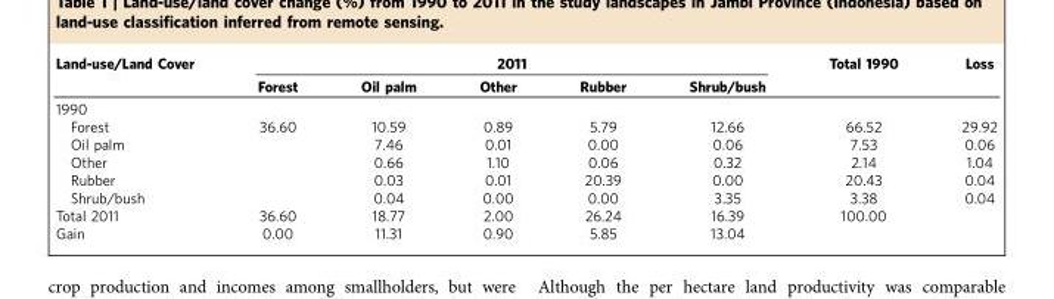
<table><thead><tr><td rowspan="2">Land-use/Land Cover</td><td colspan="5">2011</td><td rowspan="2">Total 1990</td><td rowspan="2">Loss</td></tr><tr><td>Forest</td><td>Oil palm</td><td>Other</td><td>Rubber</td><td>Shrub/bush</td></tr></thead><tbody><tr><td colspan="8">1990</td></tr><tr><td>Forest</td><td>36.60</td><td>10.59</td><td>0.89</td><td>5.79</td><td>12.66</td><td>66.52</td><td>29.92</td></tr><tr><td>Oil palm</td><td></td><td>7.46</td><td>0.01</td><td>0.00</td><td>0.06</td><td>7.53</td><td>0.06</td></tr><tr><td>Other</td><td></td><td>0.66</td><td>1.10</td><td>0.06</td><td>0.32</td><td>2.14</td><td>1.04</td></tr><tr><td>Rubber</td><td></td><td>0.03</td><td>0.01</td><td>20.39</td><td>0.00</td><td>20.43</td><td>0.04</td></tr><tr><td>Shrub/bush</td><td></td><td>0.04</td><td>0.00</td><td>0.00</td><td>3.35</td><td>3.38</td><td>0.04</td></tr><tr><td>Total 2011</td><td>36.60</td><td>18.77</td><td>2.00</td><td>26.24</td><td>16.39</td><td>100.00</td><td></td></tr><tr><td>Gain</td><td>0.00</td><td>11.31</td><td>0.90</td><td>5.85</td><td>13.04</td><td></td><td></td></tr></tbody></table>